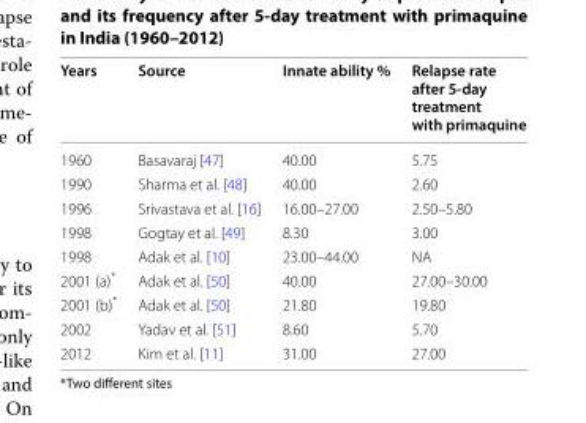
<table><thead><tr><td>Years</td><td>Source</td><td>Innate ability %</td><td>Relapse rate after 5-day treatment with primaquine</td></tr></thead><tbody><tr><td>1960</td><td>Basavaraj [47]</td><td>40.00</td><td>5.75</td></tr><tr><td>1990</td><td>Sharma et al. [48]</td><td>40.00</td><td>2.60</td></tr><tr><td>1996</td><td>Srivastava et al. [16]</td><td>16.00–27.00</td><td>2.50–5.80</td></tr><tr><td>1998</td><td>Gogtay et al. [49]</td><td>8.30</td><td>3.00</td></tr><tr><td>1998</td><td>Adak et al. [10]</td><td>23.00–44.00</td><td>NA</td></tr><tr><td>2001 (a)*</td><td>Adak et al. [50]</td><td>40.00</td><td>27.00–30.00</td></tr><tr><td>2001 (b)*</td><td>Adak et al. [50]</td><td>21.80</td><td>19.80</td></tr><tr><td>2002</td><td>Yadav et al. [51]</td><td>8.60</td><td>5.70</td></tr><tr><td>2012</td><td>Kim et al. [11]</td><td>31.00</td><td>27.00</td></tr></tbody></table>